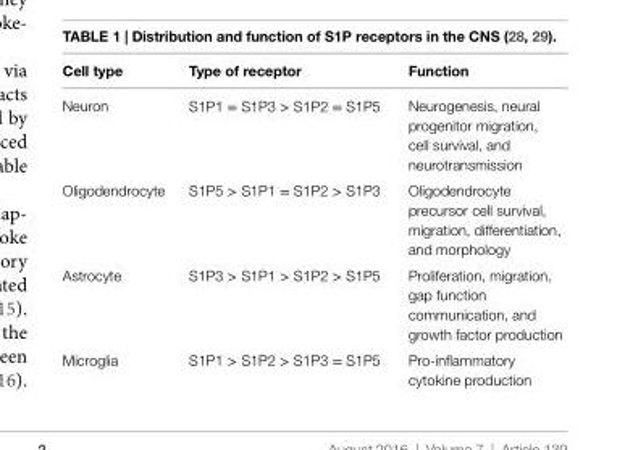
<table><thead><tr><td>Cell type</td><td>type of receptor</td><td>Function</td></tr></thead><tbody><tr><td>Neuron</td><td>S1P1 = S1P3 &gt; S1P2 = S1P5</td><td>Neurogenesis, neural progenitor migration, cell survival, and neurotransmission</td></tr><tr><td>Oligodendrocyte</td><td>S1P5 &gt; S1P1 = S1P2 &gt; S1P3</td><td>Oligodendrocyte precursor cell survival, migration, differentiation, and morphology</td></tr><tr><td>Astrocyte</td><td>S1P3 &gt; S1P1 &gt; S1P2 &gt; S1P5</td><td>Proliferation, migration, gap function communication, and growth factor production</td></tr><tr><td>Microglia</td><td>S1P1 &gt; S1P2 &gt; S1P3 = S1P5</td><td>Pro-inflammatory cytokine production</td></tr></tbody></table>